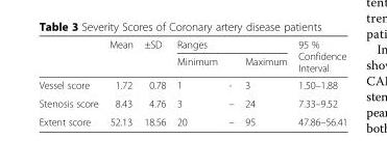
<table><thead><tr><td rowspan="2"></td><td rowspan="2">Mean</td><td rowspan="2">±SD</td><td colspan="3">Ranges</td><td rowspan="2">95 % Confidence Interval</td></tr><tr><td>Minimum</td><td></td><td>Maximum</td></tr></thead><tbody><tr><td>Vessel score</td><td>1.72</td><td>0.78</td><td>1</td><td>-</td><td>3</td><td>1.50–1.88</td></tr><tr><td>Stenosis score</td><td>8.43</td><td>4.76</td><td>3</td><td>–</td><td>24</td><td>7.33–9.52</td></tr><tr><td>Extent score</td><td>52.13</td><td>18.56</td><td>20</td><td>–</td><td>95</td><td>47.86–56.41</td></tr></tbody></table>